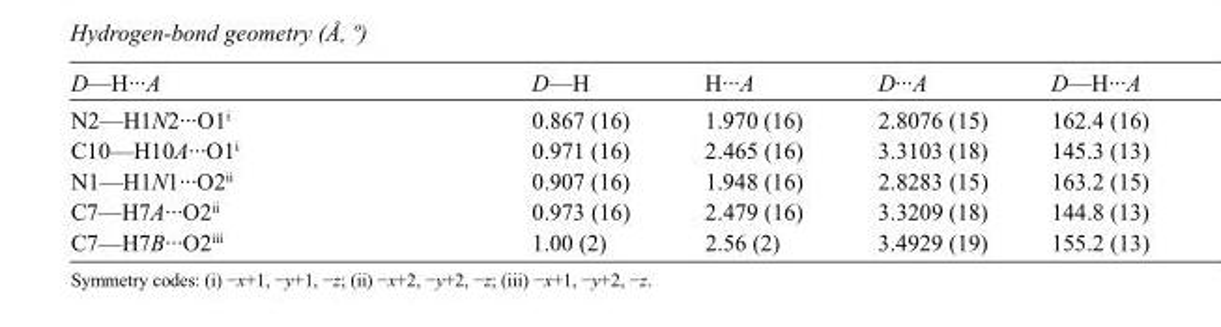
<table><tbody><tr><td>D—H···A</td><td>D—H</td><td>H···A</td><td>D···A</td><td>D—H···A</td></tr><tr><td>N2—H1N2···O1<sup>i</sup></td><td>0.867 (16)</td><td>1.970 (16)</td><td>2.8076 (15)</td><td>162.4 (16)</td></tr><tr><td>C10—H10A···O1<sup>i</sup></td><td>0.971 (16)</td><td>2.465 (16)</td><td>3.3103 (18)</td><td>145.3 (13)</td></tr><tr><td>N1—H1N1···O2<sup>ii</sup></td><td>0.907 (16)</td><td>1.948 (16)</td><td>2.8283 (15)</td><td>163.2 (15)</td></tr><tr><td>C7—H7A···O2<sup>ii</sup></td><td>0.973 (16)</td><td>2.479 (16)</td><td>3.3209 (18)</td><td>144.8 (13)</td></tr><tr><td>C7—H7B···O2<sup>iii</sup></td><td>1.00 (2)</td><td>2.56 (2)</td><td>3.4929 (19)</td><td>155.2 (13)</td></tr></tbody></table>